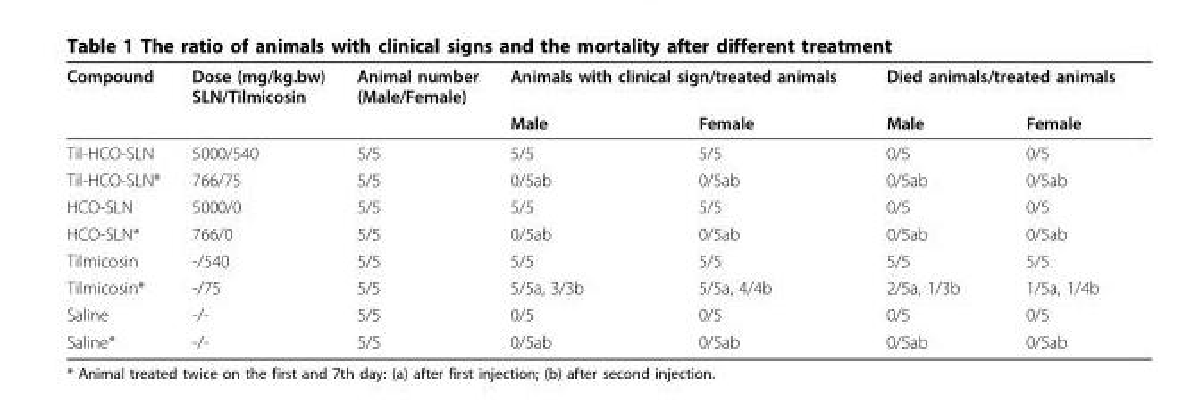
<table><thead><tr><td rowspan="2">Compound</td><td rowspan="2">Dose (mg/kg.bw) SLN/Tilmicosin</td><td rowspan="2">Animal number (Male/Female)</td><td colspan="2">Animals with clinical sign/treated animals</td><td colspan="2">Died animals/treated animals</td></tr><tr><td>Male</td><td>Female</td><td>Male</td><td>Female</td></tr></thead><tbody><tr><td>Til-HCO-SLN</td><td>5000/540</td><td>5/5</td><td>5/5</td><td>5/5</td><td>0/5</td><td>0/5</td></tr><tr><td>Til-HCO-SLN*</td><td>766/75</td><td>5/5</td><td>0/5ab</td><td>0/5ab</td><td>0/5ab</td><td>0/5ab</td></tr><tr><td>HCO-SLN</td><td>5000/0</td><td>5/5</td><td>5/5</td><td>5/5</td><td>0/5</td><td>0/5</td></tr><tr><td>HCO-SLN*</td><td>766/0</td><td>5/5</td><td>0/5ab</td><td>0/5ab</td><td>0/5ab</td><td>0/5ab</td></tr><tr><td>Tilmicosin</td><td>-/540</td><td>5/5</td><td>5/5</td><td>5/5</td><td>5/5</td><td>5/5</td></tr><tr><td>Tilmicosin*</td><td>-/75</td><td>5/5</td><td>5/5a, 3/3b</td><td>5/5a, 4/4b</td><td>2/5a, 1/3b</td><td>1/5a, 1/4b</td></tr><tr><td>Saline</td><td>-/-</td><td>5/5</td><td>0/5</td><td>0/5</td><td>0/5</td><td>0/5</td></tr><tr><td>Saline*</td><td>-/-</td><td>5/5</td><td>0/5ab</td><td>0/5ab</td><td>0/5ab</td><td>0/5ab</td></tr></tbody></table>